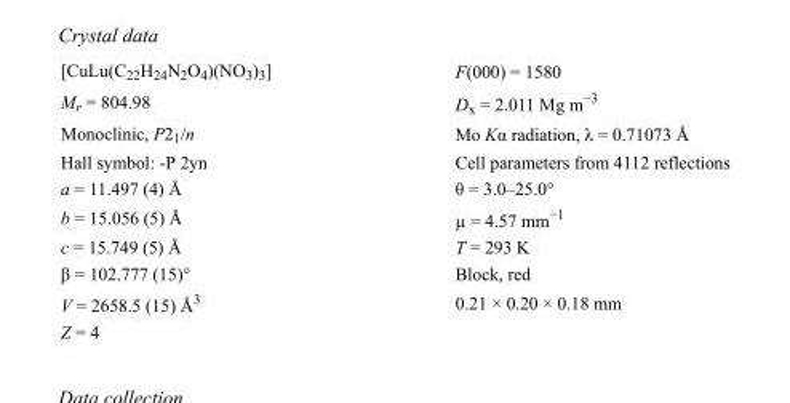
<table><tbody><tr><td>[CuLu(C<sub>22</sub>H<sub>24</sub>N<sub>2</sub>O<sub>4</sub>)(NO<sub>3</sub>)<sub>3</sub>]</td><td>F(000) = 1580</td></tr><tr><td>M<sub>r</sub> = 804.98</td><td>D<sub>x</sub> = 2.011 Mg m<sup>−3</sup></td></tr><tr><td>Monoclinic, P2<sub>1</sub>/n</td><td>Mo Kα radiation, λ = 0.71073 Å</td></tr><tr><td>Hall symbol: -P 2yn</td><td>Cell parameters from 4112 reflections</td></tr><tr><td>a = 11.497 (4) Å</td><td>θ = 3.0–25.0°</td></tr><tr><td>b = 15.056 (5) Å</td><td>µ = 4.57 mm<sup>−1</sup></td></tr><tr><td>c = 15.749 (5) Å</td><td>T = 293 K</td></tr><tr><td>β = 102.777 (15)°</td><td>Block, red</td></tr><tr><td>V = 2658.5 (15) Å<sup>3</sup></td><td>0.21 × 0.20 × 0.18 mm</td></tr><tr><td>Z = 4</td><td></td></tr></tbody></table>